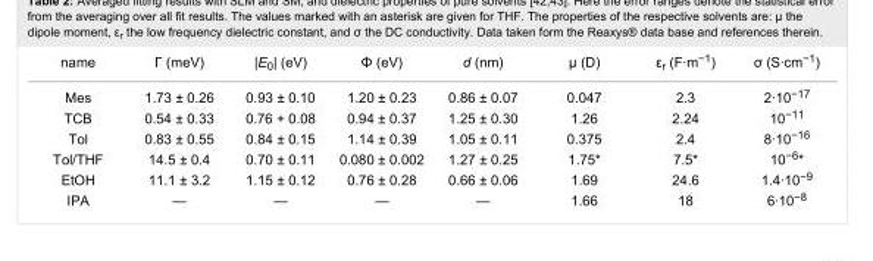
<table><tbody><tr><td>name</td><td>Γ (meV)</td><td>|E<sub>0</sub>| (eV)</td><td>Φ (eV)</td><td>d (nm)</td><td>µ (D)</td><td>ε<sub>r</sub> (F·m<sup>−1</sup>)</td><td>σ (S·cm<sup>−1</sup>)</td></tr><tr><td>Mes</td><td>1.73 ± 0.26</td><td>0.93 ± 0.10</td><td>1.20 ± 0.23</td><td>0.86 ± 0.07</td><td>0.047</td><td>2.3</td><td>2·10<sup>−17</sup></td></tr><tr><td>TCB</td><td>0.54 ± 0.33</td><td>0.76 + 0.08</td><td>0.94 ± 0.37</td><td>1.25 ± 0.30</td><td>1.26</td><td>2.24</td><td>10<sup>−11</sup></td></tr><tr><td>Tol</td><td>0.83 ± 0.55</td><td>0.84 ± 0.15</td><td>1.14 ± 0.39</td><td>1.05 ± 0.11</td><td>0.375</td><td>2.4</td><td>8·10<sup>−16</sup></td></tr><tr><td>Tol/THF</td><td>14.5 ± 0.4</td><td>0.70 ± 0.11</td><td>0.080 ± 0.002</td><td>1.27 ± 0.25</td><td>1.75*</td><td>7.5*</td><td>10<sup>−6</sup>*</td></tr><tr><td>EtOH</td><td>11.1 ± 3.2</td><td>1.15 ± 0.12</td><td>0.76 ± 0.28</td><td>0.66 ± 0.06</td><td>1.69</td><td>24.6</td><td>1.4·10<sup>−9</sup></td></tr><tr><td>IPA</td><td>—</td><td>—</td><td>—</td><td>—</td><td>1.66</td><td>18</td><td>6·10<sup>−8</sup></td></tr></tbody></table>